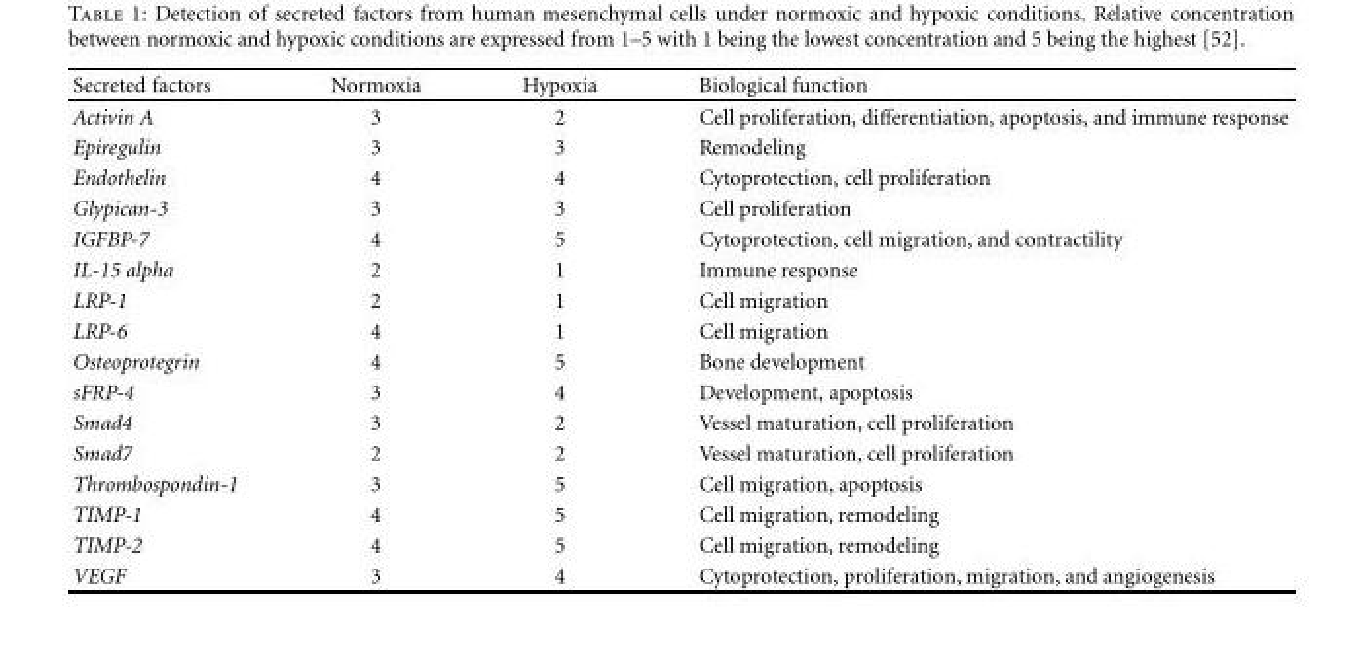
<table><thead><tr><td>Secreted factors</td><td>Normoxia</td><td>Hypoxia</td><td>Biological function</td></tr></thead><tbody><tr><td>Activin A</td><td>3</td><td>2</td><td>Cell proliferation, differentiation, apoptosis, and immune response</td></tr><tr><td>Epiregulin</td><td>3</td><td>3</td><td>Remodeling</td></tr><tr><td>Endothelin</td><td>4</td><td>4</td><td>Cytoprotection, cell proliferation</td></tr><tr><td>Glypican-3</td><td>3</td><td>3</td><td>Cell proliferation</td></tr><tr><td>IGFBP-7</td><td>4</td><td>5</td><td>Cytoprotection, cell migration, and contractility</td></tr><tr><td>IL-15 alpha</td><td>2</td><td>1</td><td>Immune response</td></tr><tr><td>LRP-1</td><td>2</td><td>1</td><td>Cell migration</td></tr><tr><td>LRP-6</td><td>4</td><td>1</td><td>Cell migration</td></tr><tr><td>Osteoprotegrin</td><td>4</td><td>5</td><td>Bone development</td></tr><tr><td>sFRP-4</td><td>3</td><td>4</td><td>Development, apoptosis</td></tr><tr><td>Smad4</td><td>3</td><td>2</td><td>Vessel maturation, cell proliferation</td></tr><tr><td>Smad7</td><td>2</td><td>2</td><td>Vessel maturation, cell proliferation</td></tr><tr><td>Thrombospondin-1</td><td>3</td><td>5</td><td>Cell migration, apoptosis</td></tr><tr><td>TIMP-1</td><td>4</td><td>5</td><td>Cell migration, remodeling</td></tr><tr><td>TIMP-2</td><td>4</td><td>5</td><td>Cell migration, remodeling</td></tr><tr><td>VEGF</td><td>3</td><td>4</td><td>Cytoprotection, proliferation, migration, and angiogenesis</td></tr></tbody></table>